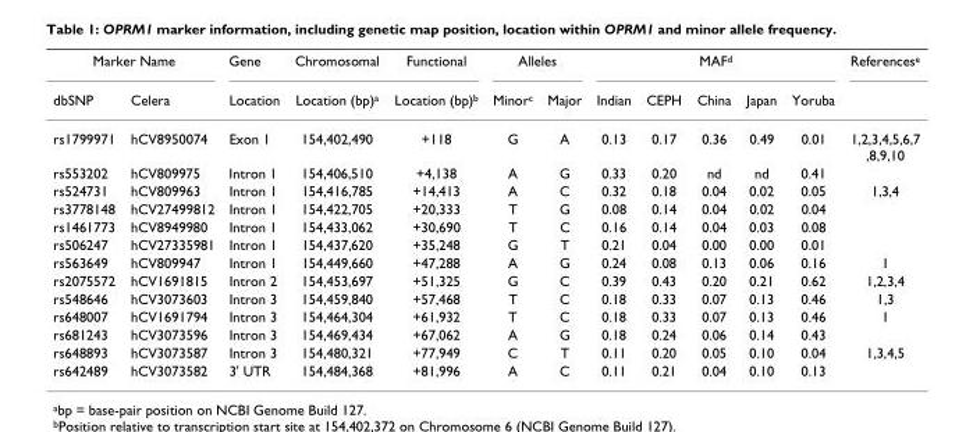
<table><thead><tr><td colspan="2">Marker Name</td><td rowspan="2">Gene Location</td><td rowspan="2">Chromosomal Location (bp)<sup>a</sup></td><td rowspan="2">Functional Location (bp)<sup>b</sup></td><td colspan="2">Alleles</td><td colspan="5">MAF<sup>d</sup></td><td rowspan="2">References<sup>e</sup></td></tr><tr><td>dbSNP</td><td>Celera</td><td>Minor<sup>c</sup></td><td>Major</td><td>Indian</td><td>CEPH</td><td>China</td><td>Japan</td><td>Yoruba</td></tr></thead><tbody><tr><td>rs1799971</td><td>hCV8950074</td><td>Exon 1</td><td>154,402,490</td><td>+118</td><td>G</td><td>A</td><td>0.13</td><td>0.17</td><td>0.36</td><td>0.49</td><td>0.01</td><td>1,2,3,4,5,6,7 ,8,9,10</td></tr><tr><td>rs553202</td><td>hCV809975</td><td>Intron 1</td><td>154,406,510</td><td>+4,138</td><td>A</td><td>G</td><td>0.33</td><td>0.20</td><td>nd</td><td>nd</td><td>0.41</td><td></td></tr><tr><td>rs524731</td><td>hCV809963</td><td>Intron 1</td><td>154,416,785</td><td>+14,413</td><td>A</td><td>C</td><td>0.32</td><td>0.18</td><td>0.04</td><td>0.02</td><td>0.05</td><td>1,3,4</td></tr><tr><td>rs3778148</td><td>hCV27499812</td><td>Intron 1</td><td>154,422,705</td><td>+20,333</td><td>T</td><td>G</td><td>0.08</td><td>0.14</td><td>0.04</td><td>0.02</td><td>0.04</td><td></td></tr><tr><td>rs1461773</td><td>hCV8949980</td><td>Intron 1</td><td>154,433,062</td><td>+30,690</td><td>T</td><td>C</td><td>0.16</td><td>0.14</td><td>0.04</td><td>0.03</td><td>0.08</td><td></td></tr><tr><td>rs506247</td><td>hCV27335981</td><td>Intron 1</td><td>154,437,620</td><td>+35,248</td><td>G</td><td>T</td><td>0.21</td><td>0.04</td><td>0.00</td><td>0.00</td><td>0.01</td><td></td></tr><tr><td>rs563649</td><td>hCV809947</td><td>Intron 1</td><td>154,449,660</td><td>+47,288</td><td>A</td><td>G</td><td>0.24</td><td>0.08</td><td>0.13</td><td>0.06</td><td>0.16</td><td>1</td></tr><tr><td>rs2075572</td><td>hCV1691815</td><td>Intron 2</td><td>154,453,697</td><td>+51,325</td><td>G</td><td>C</td><td>0.39</td><td>0.43</td><td>0.20</td><td>0.21</td><td>0.62</td><td>1,2,3,4</td></tr><tr><td>rs548646</td><td>hCV3073603</td><td>Intron 3</td><td>154,459,840</td><td>+57,468</td><td>T</td><td>C</td><td>0.18</td><td>0.33</td><td>0.07</td><td>0.13</td><td>0.46</td><td>1,3</td></tr><tr><td>rs648007</td><td>hCV1691794</td><td>Intron 3</td><td>154,464,304</td><td>+61,932</td><td>T</td><td>C</td><td>0.18</td><td>0.33</td><td>0.07</td><td>0.13</td><td>0.46</td><td>1</td></tr><tr><td>rs681243</td><td>hCV3073596</td><td>Intron 3</td><td>154,469,434</td><td>+67,062</td><td>A</td><td>G</td><td>0.18</td><td>0.24</td><td>0.06</td><td>0.14</td><td>0.43</td><td></td></tr><tr><td>rs648893</td><td>hCV3073587</td><td>Intron 3</td><td>154,480,321</td><td>+77,949</td><td>C</td><td>T</td><td>0.11</td><td>0.20</td><td>0.05</td><td>0.10</td><td>0.04</td><td>1,3,4,5</td></tr><tr><td>rs642489</td><td>hCV3073582</td><td>3&#x27; UTR</td><td>154,484,368</td><td>+81,996</td><td>A</td><td>C</td><td>0.11</td><td>0.21</td><td>0.04</td><td>0.10</td><td>0.13</td><td></td></tr></tbody></table>